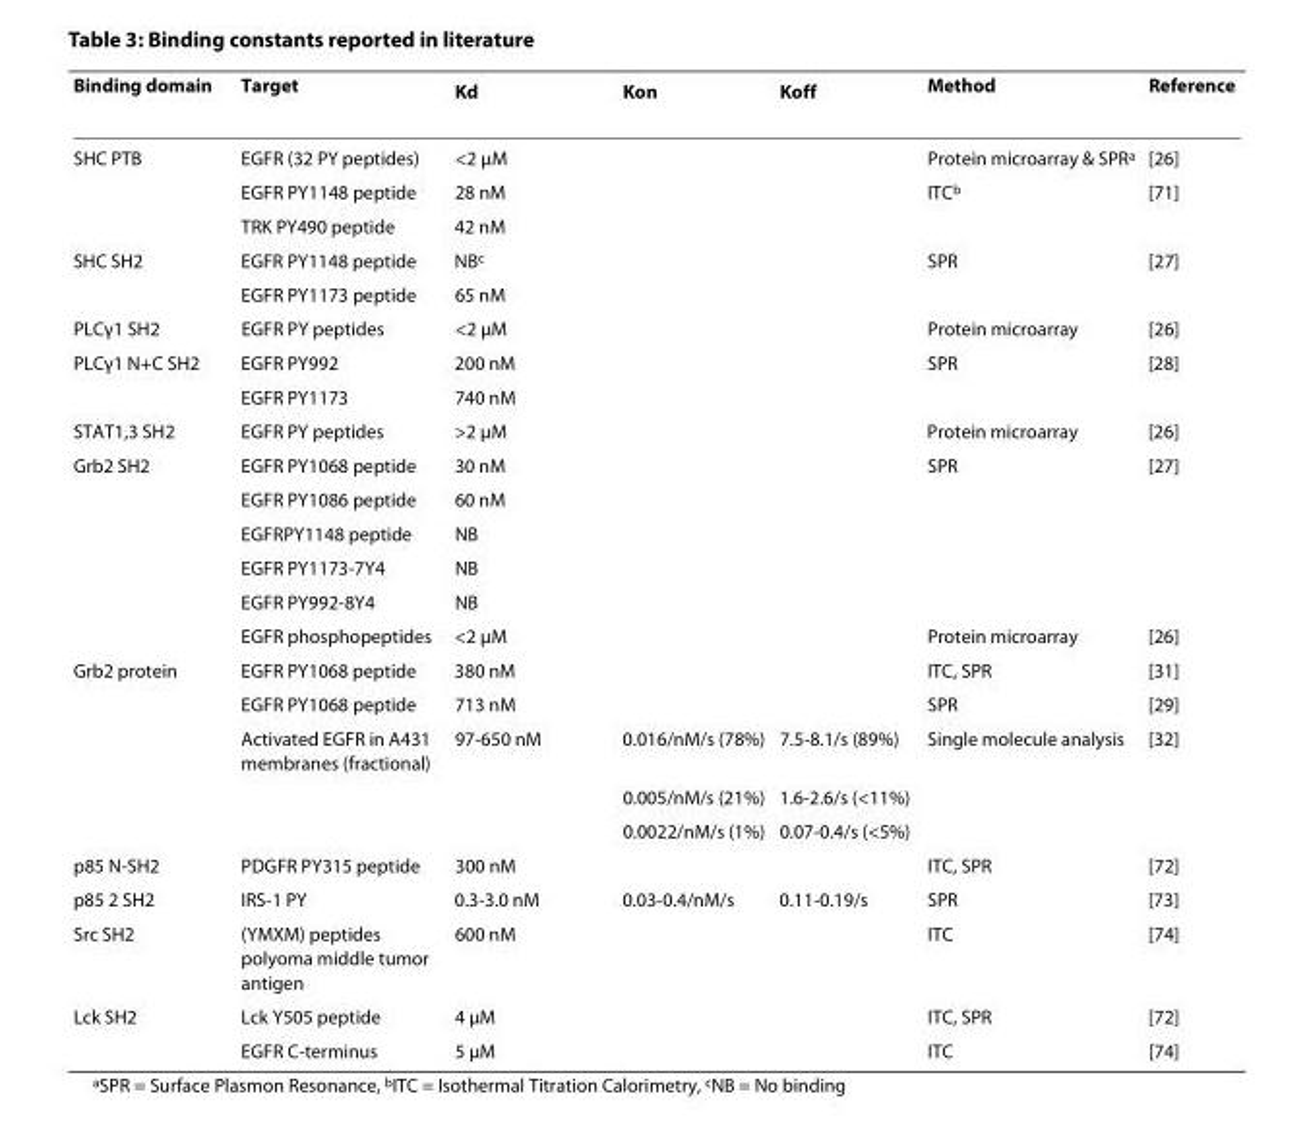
<table><thead><tr><td>Binding domain</td><td>Target</td><td>K<sub>d</sub></td><td>K<sub>on</sub></td><td>K<sub>off</sub></td><td>Method</td><td>Reference</td></tr></thead><tbody><tr><td rowspan="3">SHC PTB</td><td>EGFR (32 PY peptides)</td><td>&lt;2 μM</td><td></td><td></td><td>Protein microarray &amp; SPR<sup>a</sup></td><td>[26]</td></tr><tr><td>EGFR PY1148 peptide</td><td>28 nM</td><td></td><td></td><td>ITC<sup>b</sup></td><td>[71]</td></tr><tr><td>TRK PY490 peptide</td><td>42 nM</td><td></td><td></td><td></td><td></td></tr><tr><td rowspan="2">SHC SH2</td><td>EGFR PY1148 peptide</td><td>NB<sup>c</sup></td><td></td><td></td><td>SPR</td><td>[27]</td></tr><tr><td>EGFR PY1173 peptide</td><td>65 nM</td><td></td><td></td><td></td><td></td></tr><tr><td>PLCγ1 SH2</td><td>EGFR PY peptides</td><td>&lt;2 μM</td><td></td><td></td><td>Protein microarray</td><td>[26]</td></tr><tr><td rowspan="2">PLCγ1 N+C SH2</td><td>EGFR PY992</td><td>200 nM</td><td></td><td></td><td>SPR</td><td>[28]</td></tr><tr><td>EGFR PY1173</td><td>740 nM</td><td></td><td></td><td></td><td></td></tr><tr><td>STAT1,3 SH2</td><td>EGFR PY peptides</td><td>&gt;2 μM</td><td></td><td></td><td>Protein microarray</td><td>[26]</td></tr><tr><td rowspan="6">Grb2 SH2</td><td>EGFR PY1068 peptide</td><td>30 nM</td><td></td><td></td><td>SPR</td><td>[27]</td></tr><tr><td>EGFR PY1086 peptide</td><td>60 nM</td><td></td><td></td><td></td><td></td></tr><tr><td>EGFRPY1148 peptide</td><td>NB</td><td></td><td></td><td></td><td></td></tr><tr><td>EGFR PY1173-7Y4</td><td>NB</td><td></td><td></td><td></td><td></td></tr><tr><td>EGFR PY992-8Y4</td><td>NB</td><td></td><td></td><td></td><td></td></tr><tr><td>EGFR phosphopeptides</td><td>&lt;2 μM</td><td></td><td></td><td>Protein microarray</td><td>[26]</td></tr><tr><td rowspan="5">Grb2 protein</td><td>EGFR PY1068 peptide</td><td>380 nM</td><td></td><td></td><td>ITC, SPR</td><td>[31]</td></tr><tr><td>EGFR PY1068 peptide</td><td>713 nM</td><td></td><td></td><td>SPR</td><td>[29]</td></tr><tr><td>Activated EGFR in A431 membranes (fractional)</td><td>97-650 nM</td><td>0.016/nM/s (78%)</td><td>7.5-8.1/s (89%)</td><td>Single molecule analysis</td><td>[32]</td></tr><tr><td></td><td></td><td>0.005/nM/s (21%)</td><td>1.6-2.6/s (&lt;11%)</td><td></td><td></td></tr><tr><td></td><td></td><td>0.0022/nM/s (1%)</td><td>0.07-0.4/s (&lt;5%)</td><td></td><td></td></tr><tr><td>p85 N-SH2</td><td>PDGFR PY315 peptide</td><td>300 nM</td><td></td><td></td><td>ITC, SPR</td><td>[72]</td></tr><tr><td>p85 2 SH2</td><td>IRS-1 PY</td><td>0.3-3.0 nM</td><td>0.03-0.4/nM/s</td><td>0.11-0.19/s</td><td>SPR</td><td>[73]</td></tr><tr><td>Src SH2</td><td>(YMXM) peptides polyoma middle tumor antigen</td><td>600 nM</td><td></td><td></td><td>ITC</td><td>[74]</td></tr><tr><td rowspan="2">Lck SH2</td><td>Lck Y505 peptide</td><td>4 μM</td><td></td><td></td><td>ITC, SPR</td><td>[72]</td></tr><tr><td>EGFR C-terminus</td><td>5 μM</td><td></td><td></td><td>ITC</td><td>[74]</td></tr></tbody></table>